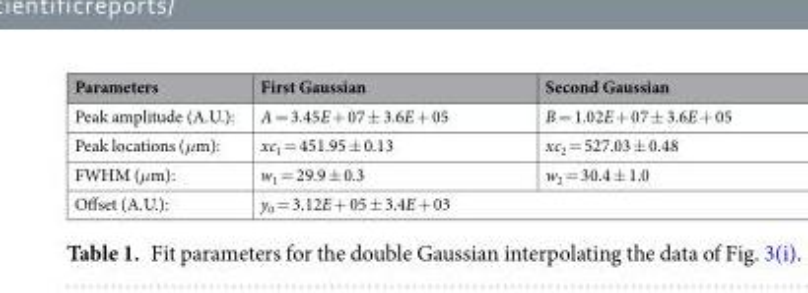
<table><thead><tr><td>Parameters</td><td>First Gaussian</td><td>Second Gaussian</td></tr></thead><tbody><tr><td>Peak amplitude (A.U.):</td><td>A = 3.45E + 07 ± 3.6E + 05</td><td>B = 1.02E + 07 ± 3.6E + 05</td></tr><tr><td>Peak locations (μm):</td><td>xc<sub>1</sub> = 451.95 ± 0.13</td><td>xc<sub>2</sub> = 527.03 ± 0.48</td></tr><tr><td>FWHM (μm):</td><td>w<sub>1</sub> = 29.9 ± 0.3</td><td>w<sub>2</sub> = 30.4 ± 1.0</td></tr><tr><td>Offset (A.U.):</td><td colspan="2">y<sub>0</sub> = 3.12E + 05 ± 3.4E + 03</td></tr></tbody></table>